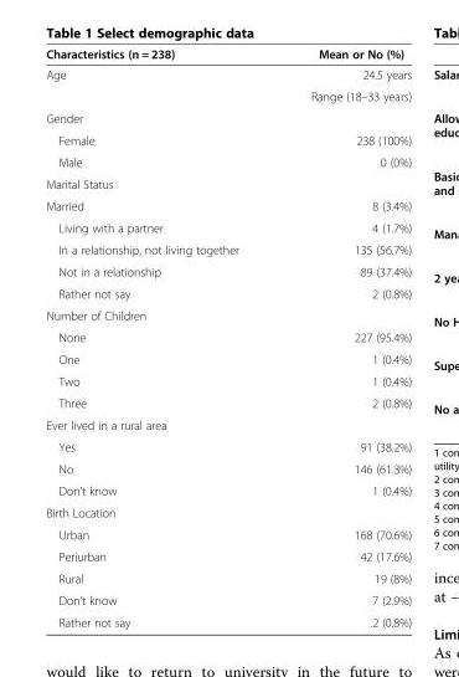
<table><thead><tr><td>Characteristics (n = 238)</td><td>Mean or No (%)</td></tr></thead><tbody><tr><td rowspan="2">Age</td><td>24.5 years</td></tr><tr><td>Range (18–33 years)</td></tr><tr><td colspan="2">Gender</td></tr><tr><td>Female</td><td>238 (100%)</td></tr><tr><td>Male</td><td>0 (0%)</td></tr><tr><td colspan="2">Marital Status</td></tr><tr><td>Married</td><td>8 (3.4%)</td></tr><tr><td>Living with a partner</td><td>4 (1.7%)</td></tr><tr><td>In a relationship, not living together</td><td>135 (56.7%)</td></tr><tr><td>Not in a relationship</td><td>89 (37.4%)</td></tr><tr><td>Rather not say</td><td>2 (0.8%)</td></tr><tr><td colspan="2">Number of Children</td></tr><tr><td>None</td><td>227 (95.4%)</td></tr><tr><td>One</td><td>1 (0.4%)</td></tr><tr><td>Two</td><td>1 (0.4%)</td></tr><tr><td>Three</td><td>2 (0.8%)</td></tr><tr><td colspan="2">Ever lived in a rural area</td></tr><tr><td>Yes</td><td>91 (38.2%)</td></tr><tr><td>No</td><td>146 (61.3%)</td></tr><tr><td>Don’t know</td><td>1 (0.4%)</td></tr><tr><td colspan="2">Birth Location</td></tr><tr><td>Urban</td><td>168 (70.6%)</td></tr><tr><td>Periurban</td><td>42 (17.6%)</td></tr><tr><td>Rural</td><td>19 (8%)</td></tr><tr><td>Don’t know</td><td>7 (2.9%)</td></tr><tr><td>Rather not say</td><td>.2 (0.8%)</td></tr></tbody></table>